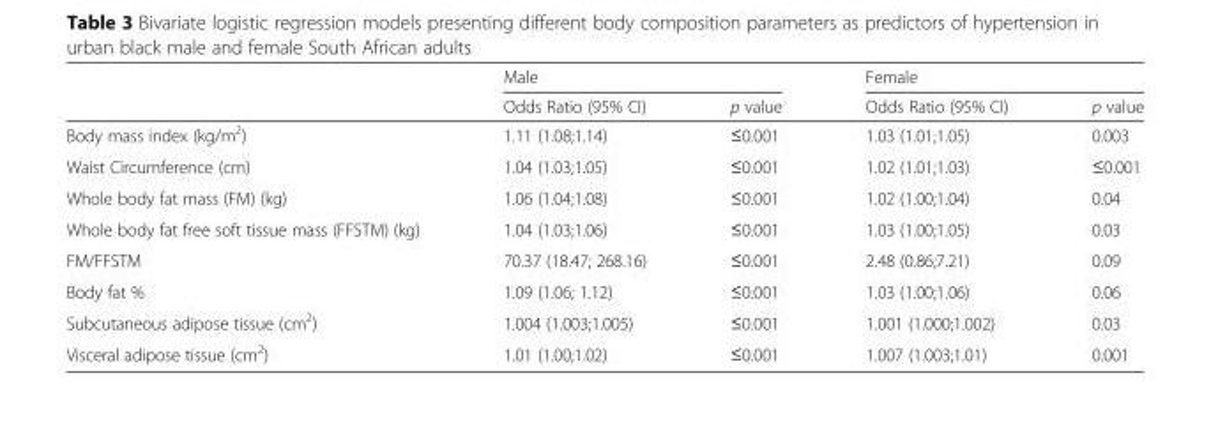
<table><thead><tr><td rowspan="2"></td><td colspan="2">Male</td><td colspan="2">Female</td></tr><tr><td>Odds Ratio (95% CI)</td><td>p value</td><td>Odds Ratio (95% CI)</td><td>p value</td></tr></thead><tbody><tr><td>Body mass index (kg/m<sup>2</sup>)</td><td>1.11 (1.08;1.14)</td><td>≤0.001</td><td>1.03 (1.01;1.05)</td><td>0.003</td></tr><tr><td>Waist Circumference (cm)</td><td>1.04 (1.03;1.05)</td><td>≤0.001</td><td>1.02 (1.01;1.03)</td><td>≤0.001</td></tr><tr><td>Whole body fat mass (FM) (kg)</td><td>1.06 (1.04;1.08)</td><td>≤0.001</td><td>1.02 (1.00;1.04)</td><td>0.04</td></tr><tr><td>Whole body fat free soft tissue mass (FFSTM) (kg)</td><td>1.04 (1.03;1.06)</td><td>≤0.001</td><td>1.03 (1.00;1.05)</td><td>0.03</td></tr><tr><td>FM/FFSTM</td><td>70.37 (18.47; 268.16)</td><td>≤0.001</td><td>2.48 (0.86;7.21)</td><td>0.09</td></tr><tr><td>Body fat %</td><td>1.09 (1.06; 1.12)</td><td>≤0.001</td><td>1.03 (1.00;1.06)</td><td>0.06</td></tr><tr><td>Subcutaneous adipose tissue (cm<sup>2</sup>)</td><td>1.004 (1.003;1.005)</td><td>≤0.001</td><td>1.001 (1.000;1.002)</td><td>0.03</td></tr><tr><td>Visceral adipose tissue (cm<sup>2</sup>)</td><td>1.01 (1.00;1.02)</td><td>≤0.001</td><td>1.007 (1.003;1.01)</td><td>0.001</td></tr></tbody></table>